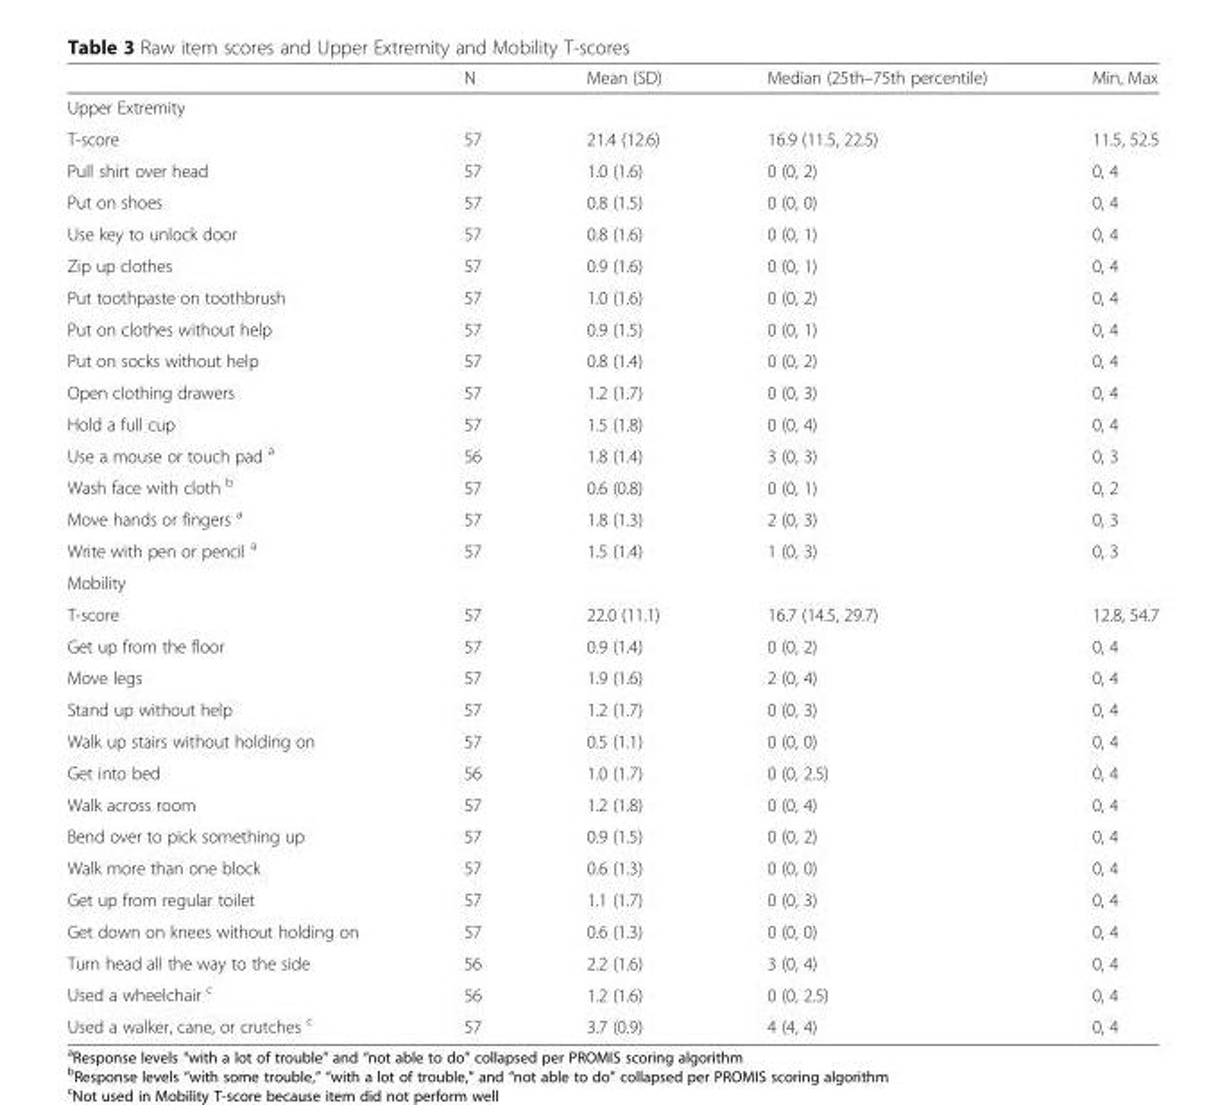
<table><thead><tr><td></td><td>N</td><td>Mean (SD)</td><td>Median (25th–75th percentile)</td><td>Min, Max</td></tr></thead><tbody><tr><td colspan="5">Upper Extremity</td></tr><tr><td>T-score</td><td>57</td><td>21.4 (12.6)</td><td>16.9 (11.5, 22.5)</td><td>11.5, 52.5</td></tr><tr><td>Pull shirt over head</td><td>57</td><td>1.0 (1.6)</td><td>0 (0, 2)</td><td>0, 4</td></tr><tr><td>Put on shoes</td><td>57</td><td>0.8 (1.5)</td><td>0 (0, 0)</td><td>0, 4</td></tr><tr><td>Use key to unlock door</td><td>57</td><td>0.8 (1.6)</td><td>0 (0, 1)</td><td>0, 4</td></tr><tr><td>Zip up clothes</td><td>57</td><td>0.9 (1.6)</td><td>0 (0, 1)</td><td>0, 4</td></tr><tr><td>Put toothpaste on toothbrush</td><td>57</td><td>1.0 (1.6)</td><td>0 (0, 2)</td><td>0, 4</td></tr><tr><td>Put on clothes without help</td><td>57</td><td>0.9 (1.5)</td><td>0 (0, 1)</td><td>0, 4</td></tr><tr><td>Put on socks without help</td><td>57</td><td>0.8 (1.4)</td><td>0 (0, 2)</td><td>0, 4</td></tr><tr><td>Open clothing drawers</td><td>57</td><td>1.2 (1.7)</td><td>0 (0, 3)</td><td>0, 4</td></tr><tr><td>Hold a full cup</td><td>57</td><td>1.5 (1.8)</td><td>0 (0, 4)</td><td>0, 4</td></tr><tr><td>Use a mouse or touch pad <sup>a</sup></td><td>56</td><td>1.8 (1.4)</td><td>3 (0, 3)</td><td>0, 3</td></tr><tr><td>Wash face with cloth <sup>b</sup></td><td>57</td><td>0.6 (0.8)</td><td>0 (0, 1)</td><td>0, 2</td></tr><tr><td>Move hands or fingers <sup>a</sup></td><td>57</td><td>1.8 (1.3)</td><td>2 (0, 3)</td><td>0, 3</td></tr><tr><td>Write with pen or pencil <sup>a</sup></td><td>57</td><td>1.5 (1.4)</td><td>1 (0, 3)</td><td>0, 3</td></tr><tr><td colspan="5">Mobility</td></tr><tr><td>T-score</td><td>57</td><td>22.0 (11.1)</td><td>16.7 (14.5, 29.7)</td><td>12.8, 54.7</td></tr><tr><td>Get up from the floor</td><td>57</td><td>0.9 (1.4)</td><td>0 (0, 2)</td><td>0, 4</td></tr><tr><td>Move legs</td><td>57</td><td>1.9 (1.6)</td><td>2 (0, 4)</td><td>0, 4</td></tr><tr><td>Stand up without help</td><td>57</td><td>1.2 (1.7)</td><td>0 (0, 3)</td><td>0, 4</td></tr><tr><td>Walk up stairs without holding on</td><td>57</td><td>0.5 (1.1)</td><td>0 (0, 0)</td><td>0, 4</td></tr><tr><td>Get into bed</td><td>56</td><td>1.0 (1.7)</td><td>0 (0, 2.5)</td><td>0, 4</td></tr><tr><td>Walk across room</td><td>57</td><td>1.2 (1.8)</td><td>0 (0, 4)</td><td>0, 4</td></tr><tr><td>Bend over to pick something up</td><td>57</td><td>0.9 (1.5)</td><td>0 (0, 2)</td><td>0, 4</td></tr><tr><td>Walk more than one block</td><td>57</td><td>0.6 (1.3)</td><td>0 (0, 0)</td><td>0, 4</td></tr><tr><td>Get up from regular toilet</td><td>57</td><td>1.1 (1.7)</td><td>0 (0, 3)</td><td>0, 4</td></tr><tr><td>Get down on knees without holding on</td><td>57</td><td>0.6 (1.3)</td><td>0 (0, 0)</td><td>0, 4</td></tr><tr><td>Turn head all the way to the side</td><td>56</td><td>2.2 (1.6)</td><td>3 (0, 4)</td><td>0, 4</td></tr><tr><td>Used a wheelchair <sup>c</sup></td><td>56</td><td>1.2 (1.6)</td><td>0 (0, 2.5)</td><td>0, 4</td></tr><tr><td>Used a walker, cane, or crutches <sup>c</sup></td><td>57</td><td>3.7 (0.9)</td><td>4 (4, 4)</td><td>0, 4</td></tr></tbody></table>